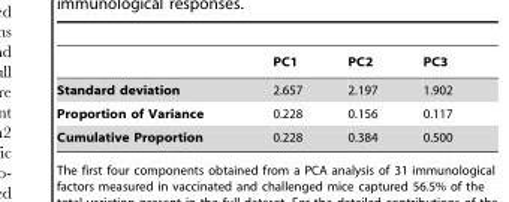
<table><thead><tr><td></td><td>PC1</td><td>PC2</td><td>PC3</td></tr></thead><tbody><tr><td>Standard deviation</td><td>2.657</td><td>2.197</td><td>1.902</td></tr><tr><td>Proportion of Variance</td><td>0.228</td><td>0.156</td><td>0.117</td></tr><tr><td>Cumulative Proportion</td><td>0.228</td><td>0.384</td><td>0.500</td></tr></tbody></table>